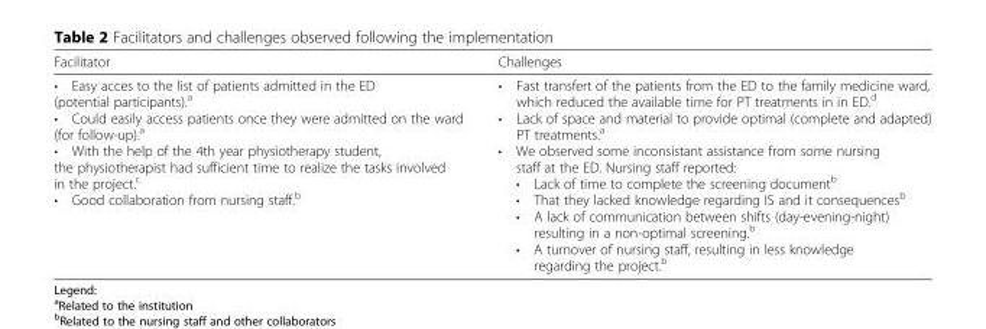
<table><thead><tr><td>Facilitator</td><td>Challenges</td></tr></thead><tbody><tr><td>• Easy acces to the list of patients admitted in the ED (potential participants).<sup>a</sup> • Could easily access patients once they were admitted on the ward (for follow-up).<sup>a</sup> • With the help of the 4th year physiotherapy student, the physiotherapist had sufficient time to realize the tasks involved in the project.<sup>c</sup> • Good collaboration from nursing staff.<sup>b</sup></td><td>• Fast transfert of the patients from the ED to the family medicine ward, which reduced the available time for PT treatments in in ED.<sup>d</sup> • Lack of space and material to provide optimal (complete and adapted) PT treatments.<sup>a</sup> • We observed some inconsistant assistance from some nursing staff at the ED. Nursing staff reported: • Lack of time to complete the screening document<sup>b</sup> • That they lacked knowledge regarding IS and it consequences<sup>b</sup> • A lack of communication between shifts (day-evening-night) resulting in a non-optimal screening.<sup>b</sup> • A turnover of nursing staff, resulting in less knowledge regarding the project.<sup>b</sup></td></tr></tbody></table>